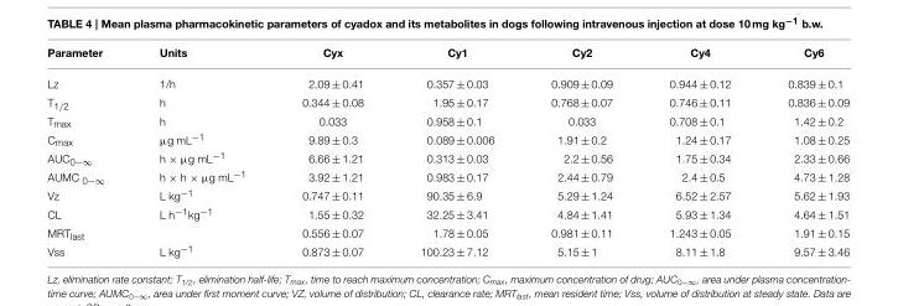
<table><thead><tr><td>Parameter</td><td>Units</td><td>Cyx</td><td>Cy1</td><td>Cy2</td><td>Cy4</td><td>Cy6</td></tr></thead><tbody><tr><td>Lz</td><td>1/h</td><td>2.09 ± 0.41</td><td>0.357 ± 0.03</td><td>0.909 ± 0.09</td><td>0.944 ± 0.12</td><td>0.839 ± 0.1</td></tr><tr><td>T<sub>1/2</sub></td><td>h</td><td>0.344 ± 0.08</td><td>1.95 ± 0.17</td><td>0.768 ± 0.07</td><td>0.746 ± 0.11</td><td>0.836 ± 0.09</td></tr><tr><td>T<sub>max</sub></td><td>h</td><td>0.033</td><td>0.958 ± 0.1</td><td>0.033</td><td>0.708 ± 0.1</td><td>1.42 ± 0.2</td></tr><tr><td>C<sub>max</sub></td><td>µg mL<sup>−1</sup></td><td>9.89 ± 0.3</td><td>0.089 ± 0.006</td><td>1.91 ± 0.2</td><td>1.24 ± 0.17</td><td>1.08 ± 0.25</td></tr><tr><td>AUC<sub>0−∞</sub></td><td>h × µg mL<sup>−1</sup></td><td>6.66 ± 1.21</td><td>0.313 ± 0.03</td><td>2.2 ± 0.56</td><td>1.75 ± 0.34</td><td>2.33 ± 0.66</td></tr><tr><td>AUMC <sub>0−∞</sub></td><td>h × h × µg mL<sup>−1</sup></td><td>3.92 ± 1.21</td><td>0.983 ± 0.17</td><td>2.44 ± 0.79</td><td>2.4 ± 0.5</td><td>4.73 ± 1.28</td></tr><tr><td>Vz</td><td>L kg<sup>−1</sup></td><td>0.747 ± 0.11</td><td>90.35 ± 6.9</td><td>5.29 ± 1.24</td><td>6.52 ± 2.57</td><td>5.62 ± 1.93</td></tr><tr><td>CL</td><td>L h<sup>−1</sup>kg<sup>−1</sup></td><td>1.55 ± 0.32</td><td>32.25 ± 3.41</td><td>4.84 ± 1.41</td><td>5.93 ± 1.34</td><td>4.64 ± 1.51</td></tr><tr><td>MRT<sub>last</sub></td><td></td><td>0.556 ± 0.07</td><td>1.78 ± 0.05</td><td>0.981 ± 0.11</td><td>1.243 ± 0.05</td><td>1.91 ± 0.15</td></tr><tr><td>Vss</td><td>L kg<sup>−1</sup></td><td>0.873 ± 0.07</td><td>100.23 ± 7.12</td><td>5.15 ± 1</td><td>8.11 ± 1.8</td><td>9.57 ± 3.46</td></tr></tbody></table>